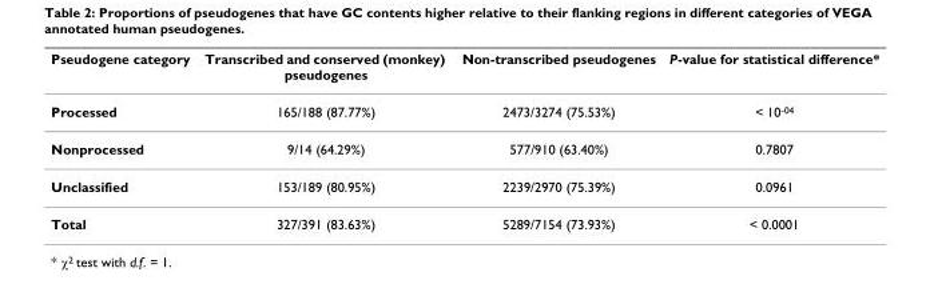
<table><thead><tr><td>Pseudogene category</td><td>Transcribed and conserved (monkey) pseudogenes</td><td>Non-transcribed pseudogenes</td><td>P-value for statistical difference*</td></tr></thead><tbody><tr><td>Processed</td><td>165/188 (87.77%)</td><td>2473/3274 (75.53%)</td><td>&lt; 10<sup>-04</sup></td></tr><tr><td>Nonprocessed</td><td>9/14 (64.29%)</td><td>577/910 (63.40%)</td><td>0.7807</td></tr><tr><td>Unclassified</td><td>153/189 (80.95%)</td><td>2239/2970 (75.39%)</td><td>0.0961</td></tr><tr><td>Total</td><td>327/391 (83.63%)</td><td>5289/7154 (73.93%)</td><td>&lt; 0.0001</td></tr></tbody></table>